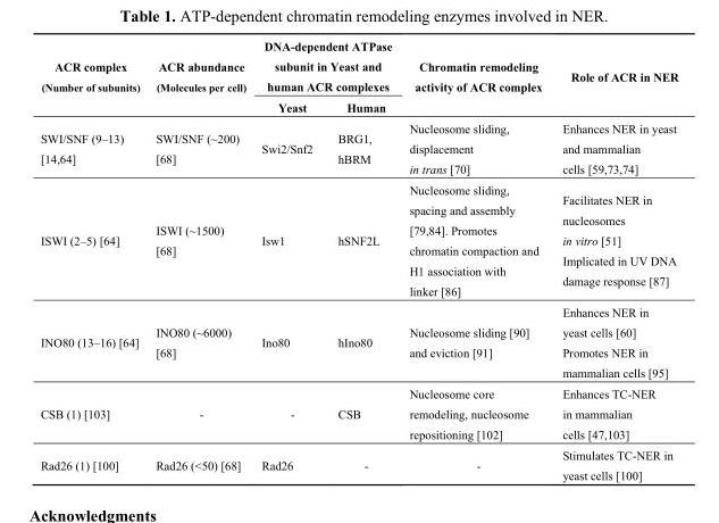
<table><thead><tr><td rowspan="2">ACR complex (Number of subunits)</td><td rowspan="2">ACR abundance (Molecules per cell)</td><td colspan="2">DNA-dependent ATPase subunit in Yeast and human ACR complexes</td><td rowspan="2">Chromatin remodeling activity of ACR complex</td><td rowspan="2">Role of ACR in NER</td></tr><tr><td>Yeast</td><td>Human</td></tr></thead><tbody><tr><td>SWI/SNF (9–13) [14,64]</td><td>SWI/SNF (~200) [68]</td><td>Swi2/Snf2</td><td>BRG1, hBRM</td><td>Nucleosome sliding, displacement in trans [70]</td><td>Enhances NER in yeast and mammalian cells [59,73,74]</td></tr><tr><td>ISWI (2–5) [64]</td><td>ISWI (~1500) [68]</td><td>Isw1</td><td>hSNF2L</td><td>Nucleosome sliding, spacing and assembly [79,84]. Promotes chromatin compaction and H1 association with linker [86]</td><td>Facilitates NER in nucleosomes in vitro [51] Implicated in UV DNA damage response [87]</td></tr><tr><td>INO80 (13–16) [64]</td><td>INO80 (~6000) [68]</td><td>Ino80</td><td>hIno80</td><td>Nucleosome sliding [90] and eviction [91]</td><td>Enhances NER in yeast cells [60] Promotes NER in mammalian cells [95]</td></tr><tr><td>CSB (1) [103]</td><td>-</td><td>-</td><td>CSB</td><td>Nucleosome core remodeling, nucleosome repositioning [102]</td><td>Enhances TC-NER in mammalian cells [47,103]</td></tr><tr><td>Rad26 (1) [100]</td><td>Rad26 (&lt;50) [68]</td><td>Rad26</td><td>-</td><td>-</td><td>Stimulates TC-NER in yeast cells [100]</td></tr></tbody></table>